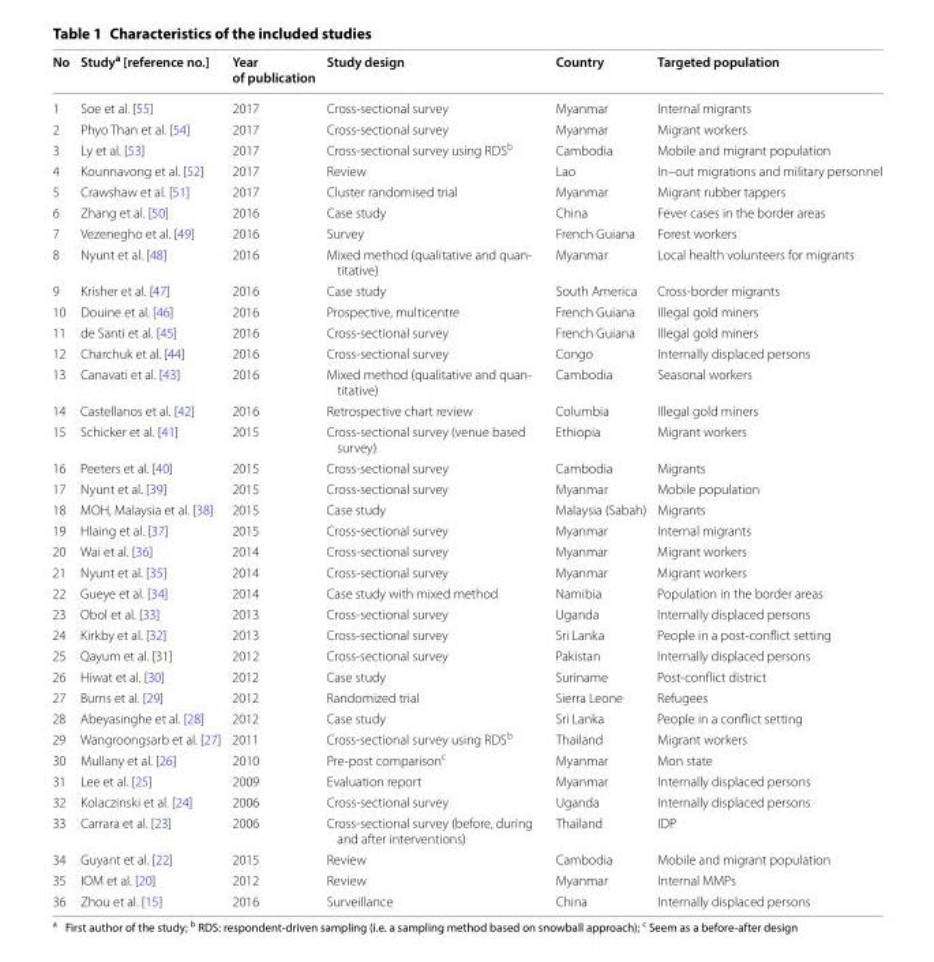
<table><thead><tr><td>No</td><td>Study<sup>a</sup> [reference no.]</td><td>Year of publication</td><td>Study design</td><td>Country</td><td>Targeted population</td></tr></thead><tbody><tr><td>1</td><td>Soe et al. [55]</td><td>2017</td><td>Cross-sectional survey</td><td>Myanmar</td><td>Internal migrants</td></tr><tr><td>2</td><td>Phyo Than et al. [54]</td><td>2017</td><td>Cross-sectional survey</td><td>Myanmar</td><td>Migrant workers</td></tr><tr><td>3</td><td>Ly et al. [53]</td><td>2017</td><td>Cross-sectional survey using RDS<sup>b</sup></td><td>Cambodia</td><td>Mobile and migrant population</td></tr><tr><td>4</td><td>Kounnavong et al. [52]</td><td>2017</td><td>Review</td><td>Lao</td><td>In–out migrations and military personnel</td></tr><tr><td>5</td><td>Crawshaw et al. [51]</td><td>2017</td><td>Cluster randomised trial</td><td>Myanmar</td><td>Migrant rubber tappers</td></tr><tr><td>6</td><td>Zhang et al. [50]</td><td>2016</td><td>Case study</td><td>China</td><td>Fever cases in the border areas</td></tr><tr><td>7</td><td>Vezenegho et al. [49]</td><td>2016</td><td>Survey</td><td>French Guiana</td><td>Forest workers</td></tr><tr><td>8</td><td>Nyunt et al. [48]</td><td>2016</td><td>Mixed method (qualitative and quan- titative)</td><td>Myanmar</td><td>Local health volunteers for migrants</td></tr><tr><td>9</td><td>Krisher et al. [47]</td><td>2016</td><td>Case study</td><td>South America</td><td>Cross-border migrants</td></tr><tr><td>10</td><td>Douine et al. [46]</td><td>2016</td><td>Prospective, multicentre</td><td>French Guiana</td><td>Illegal gold miners</td></tr><tr><td>11</td><td>de Santi et al. [45]</td><td>2016</td><td>Cross-sectional survey</td><td>French Guiana</td><td>Illegal gold miners</td></tr><tr><td>12</td><td>Charchuk et al. [44]</td><td>2016</td><td>Cross-sectional survey</td><td>Congo</td><td>Internally displaced persons</td></tr><tr><td>13</td><td>Canavati et al. [43]</td><td>2016</td><td>Mixed method (qualitative and quan- titative)</td><td>Cambodia</td><td>Seasonal workers</td></tr><tr><td>14</td><td>Castellanos et al. [42]</td><td>2016</td><td>Retrospective chart review</td><td>Columbia</td><td>Illegal gold miners</td></tr><tr><td>15</td><td>Schicker et al. [41]</td><td>2015</td><td>Cross-sectional survey (venue based survey)</td><td>Ethiopia</td><td>Migrant workers</td></tr><tr><td>16</td><td>Peeters et al. [40]</td><td>2015</td><td>Cross-sectional survey</td><td>Cambodia</td><td>Migrants</td></tr><tr><td>17</td><td>Nyunt et al. [39]</td><td>2015</td><td>Cross-sectional survey</td><td>Myanmar</td><td>Mobile population</td></tr><tr><td>18</td><td>MOH, Malaysia et al. [38]</td><td>2015</td><td>Case study</td><td>Malaysia (Sabah)</td><td>Migrants</td></tr><tr><td>19</td><td>Hlaing et al. [37]</td><td>2015</td><td>Cross-sectional survey</td><td>Myanmar</td><td>Internal migrants</td></tr><tr><td>20</td><td>Wai et al. [36]</td><td>2014</td><td>Cross-sectional survey</td><td>Myanmar</td><td>Migrant workers</td></tr><tr><td>21</td><td>Nyunt et al. [35]</td><td>2014</td><td>Cross-sectional survey</td><td>Myanmar</td><td>Migrant workers</td></tr><tr><td>22</td><td>Gueye et al. [34]</td><td>2014</td><td>Case study with mixed method</td><td>Namibia</td><td>Population in the border areas</td></tr><tr><td>23</td><td>Obol et al. [33]</td><td>2013</td><td>Cross-sectional survey</td><td>Uganda</td><td>Internally displaced persons</td></tr><tr><td>24</td><td>Kirkby et al. [32]</td><td>2013</td><td>Cross-sectional survey</td><td>Sri Lanka</td><td>People in a post-conflict setting</td></tr><tr><td>25</td><td>Qayum et al. [31]</td><td>2012</td><td>Cross-sectional survey</td><td>Pakistan</td><td>Internally displaced persons</td></tr><tr><td>26</td><td>Hiwat et al. [30]</td><td>2012</td><td>Case study</td><td>Suriname</td><td>Post-conflict district</td></tr><tr><td>27</td><td>Burns et al. [29]</td><td>2012</td><td>Randomized trial</td><td>Sierra Leone</td><td>Refugees</td></tr><tr><td>28</td><td>Abeyasinghe et al. [28]</td><td>2012</td><td>Case study</td><td>Sri Lanka</td><td>People in a conflict setting</td></tr><tr><td>29</td><td>Wangroongsarb et al. [27]</td><td>2011</td><td>Cross-sectional survey using RDS<sup>b</sup></td><td>Thailand</td><td>Migrant workers</td></tr><tr><td>30</td><td>Mullany et al. [26]</td><td>2010</td><td>Pre-post comparison<sup>c</sup></td><td>Myanmar</td><td>Mon state</td></tr><tr><td>31</td><td>Lee et al. [25]</td><td>2009</td><td>Evaluation report</td><td>Myanmar</td><td>Internally displaced persons</td></tr><tr><td>32</td><td>Kolaczinski et al. [24]</td><td>2006</td><td>Cross-sectional survey</td><td>Uganda</td><td>Internally displaced persons</td></tr><tr><td>33</td><td>Carrara et al. [23]</td><td>2006</td><td>Cross-sectional survey (before, during and after interventions)</td><td>Thailand</td><td>IDP</td></tr><tr><td>34</td><td>Guyant et al. [22]</td><td>2015</td><td>Review</td><td>Cambodia</td><td>Mobile and migrant population</td></tr><tr><td>35</td><td>IOM et al. [20]</td><td>2012</td><td>Review</td><td>Myanmar</td><td>Internal MMPs</td></tr><tr><td>36</td><td>Zhou et al. [15]</td><td>2016</td><td>Surveillance</td><td>China</td><td>Internally displaced persons</td></tr></tbody></table>